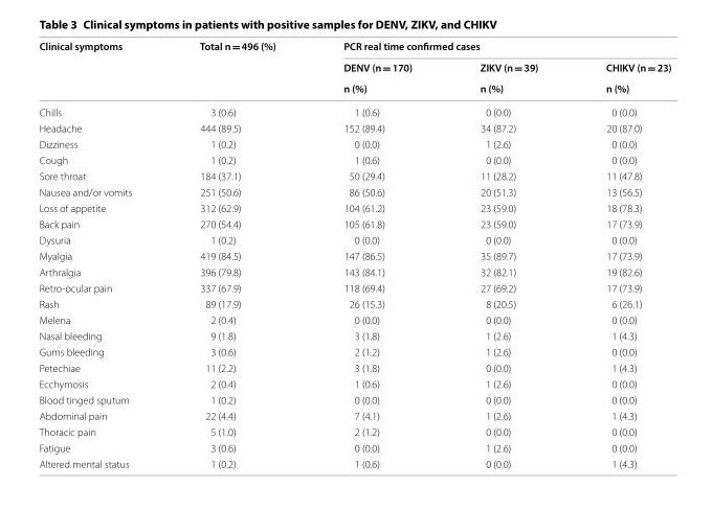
<table><thead><tr><td rowspan="3">Clinical symptoms</td><td rowspan="3">Total n = 496 (%)</td><td colspan="3">PCR real time confirmed cases</td></tr><tr><td rowspan="2">DENV (n = 170) n (%)</td><td rowspan="2">ZIKV (n = 39) n (%)</td><td rowspan="2">CHIKV (n = 23) n (%)</td></tr><tr></tr></thead><tbody><tr><td>Chills</td><td>3 (0.6)</td><td>1 (0.6)</td><td>0 (0.0)</td><td>0 (0.0)</td></tr><tr><td>Headache</td><td>444 (89.5)</td><td>152 (89.4)</td><td>34 (87.2)</td><td>20 (87.0)</td></tr><tr><td>Dizziness</td><td>1 (0.2)</td><td>0 (0.0)</td><td>1 (2.6)</td><td>0 (0.0)</td></tr><tr><td>Cough</td><td>1 (0.2)</td><td>1 (0.6)</td><td>0 (0.0)</td><td>0 (0.0)</td></tr><tr><td>Sore throat</td><td>184 (37.1)</td><td>50 (29.4)</td><td>11 (28.2)</td><td>11 (47.8)</td></tr><tr><td>Nausea and/or vomits</td><td>251 (50.6)</td><td>86 (50.6)</td><td>20 (51.3)</td><td>13 (56.5)</td></tr><tr><td>Loss of appetite</td><td>312 (62.9)</td><td>104 (61.2)</td><td>23 (59.0)</td><td>18 (78.3)</td></tr><tr><td>Back pain</td><td>270 (54.4)</td><td>105 (61.8)</td><td>23 (59.0)</td><td>17 (73.9)</td></tr><tr><td>Dysuria</td><td>1 (0.2)</td><td>0 (0.0)</td><td>0 (0.0)</td><td>0 (0.0)</td></tr><tr><td>Myalgia</td><td>419 (84.5)</td><td>147 (86.5)</td><td>35 (89.7)</td><td>17 (73.9)</td></tr><tr><td>Arthralgia</td><td>396 (79.8)</td><td>143 (84.1)</td><td>32 (82.1)</td><td>19 (82.6)</td></tr><tr><td>Retro‑ocular pain</td><td>337 (67.9)</td><td>118 (69.4)</td><td>27 (69.2)</td><td>17 (73.9)</td></tr><tr><td>Rash</td><td>89 (17.9)</td><td>26 (15.3)</td><td>8 (20.5)</td><td>6 (26.1)</td></tr><tr><td>Melena</td><td>2 (0.4)</td><td>0 (0.0)</td><td>0 (0.0)</td><td>0 (0.0)</td></tr><tr><td>Nasal bleeding</td><td>9 (1.8)</td><td>3 (1.8)</td><td>1 (2.6)</td><td>1 (4.3)</td></tr><tr><td>Gums bleeding</td><td>3 (0.6)</td><td>2 (1.2)</td><td>1 (2.6)</td><td>0 (0.0)</td></tr><tr><td>Petechiae</td><td>11 (2.2)</td><td>3 (1.8)</td><td>0 (0.0)</td><td>1 (4.3)</td></tr><tr><td>Ecchymosis</td><td>2 (0.4)</td><td>1 (0.6)</td><td>1 (2.6)</td><td>0 (0.0)</td></tr><tr><td>Blood tinged sputum</td><td>1 (0.2)</td><td>0 (0.0)</td><td>0 (0.0)</td><td>0 (0.0)</td></tr><tr><td>Abdominal pain</td><td>22 (4.4)</td><td>7 (4.1)</td><td>1 (2.6)</td><td>1 (4.3)</td></tr><tr><td>Thoracic pain</td><td>5 (1.0)</td><td>2 (1.2)</td><td>0 (0.0)</td><td>0 (0.0)</td></tr><tr><td>Fatigue</td><td>3 (0.6)</td><td>0 (0.0)</td><td>1 (2.6)</td><td>0 (0.0)</td></tr><tr><td>Altered mental status</td><td>1 (0.2)</td><td>1 (0.6)</td><td>0 (0.0)</td><td>1 (4.3)</td></tr></tbody></table>